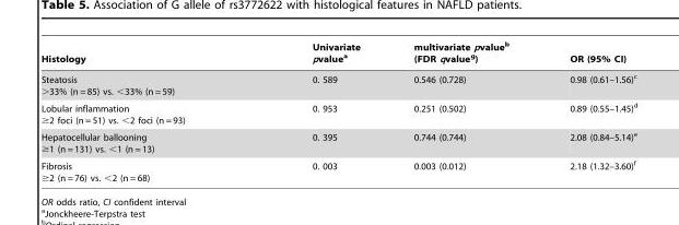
<table><thead><tr><td>Histology</td><td>Univariate pvalue<sup>a</sup></td><td>multivariate pvalue<sup>b</sup> (FDR qvalue<sup>g</sup>)</td><td>OR (95% CI)</td></tr></thead><tbody><tr><td>Steatosis &gt;33% (n = 85) vs. &lt;33% (n = 59)</td><td>0. 589</td><td>0.546 (0.728)</td><td>0.98 (0.61–1.56)<sup>c</sup></td></tr><tr><td>Lobular inflammation ≥2 foci (n = 51) vs. &lt;2 foci (n = 93)</td><td>0. 953</td><td>0.251 (0.502)</td><td>0.89 (0.55–1.45)<sup>d</sup></td></tr><tr><td>Hepatocellular ballooning ≥1 (n = 131) vs. &lt;1 (n = 13)</td><td>0. 395</td><td>0.744 (0.744)</td><td>2.08 (0.84–5.14)<sup>e</sup></td></tr><tr><td>Fibrosis ≥2 (n = 76) vs. &lt;2 (n = 68)</td><td>0. 003</td><td>0.003 (0.012)</td><td>2.18 (1.32–3.60)<sup>f</sup></td></tr></tbody></table>